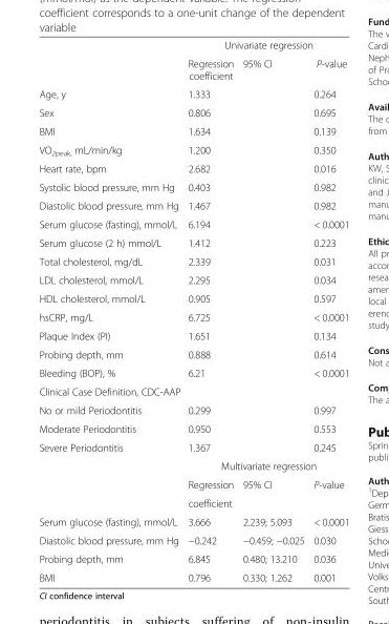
<table><thead><tr><td rowspan="2"></td><td colspan="3">Univariate regression</td></tr><tr><td>Regression coefficient</td><td>95% CI</td><td>P-value</td></tr></thead><tbody><tr><td>Age, y</td><td>1.333</td><td></td><td>0.264</td></tr><tr><td>Sex</td><td>0.806</td><td></td><td>0.695</td></tr><tr><td>BMI</td><td>1.634</td><td></td><td>0.139</td></tr><tr><td>VO<sub>2peak,</sub> mL/min/kg</td><td>1.200</td><td></td><td>0.350</td></tr><tr><td>Heart rate, bpm</td><td>2.682</td><td></td><td>0.016</td></tr><tr><td>Systolic blood pressure, mm Hg</td><td>0.403</td><td></td><td>0.982</td></tr><tr><td>Diastolic blood pressure, mm Hg</td><td>1.467</td><td></td><td>0.982</td></tr><tr><td>Serum glucose (fasting), mmol/L</td><td>6.194</td><td></td><td>&lt; 0.0001</td></tr><tr><td>Serum glucose (2 h) mmol/L</td><td>1.412</td><td></td><td>0.223</td></tr><tr><td>Total cholesterol, mg/dL</td><td>2.339</td><td></td><td>0.031</td></tr><tr><td>LDL cholesterol, mmol/L</td><td>2.295</td><td></td><td>0.034</td></tr><tr><td>HDL cholesterol, mmol/L</td><td>0.905</td><td></td><td>0.597</td></tr><tr><td>hsCRP, mg/L</td><td>6.725</td><td></td><td>&lt; 0.0001</td></tr><tr><td>Plaque Index (PI)</td><td>1.651</td><td></td><td>0.134</td></tr><tr><td>Probing depth, mm</td><td>0.888</td><td></td><td>0.614</td></tr><tr><td>Bleeding (BOP), %</td><td>6.21</td><td></td><td>&lt; 0.0001</td></tr><tr><td colspan="4">Clinical Case Definition, CDC-AAP</td></tr><tr><td>No or mild Periodontitis</td><td>0.299</td><td></td><td>0.997</td></tr><tr><td>Moderate Periodontitis</td><td>0.950</td><td></td><td>0.553</td></tr><tr><td rowspan="4">Severe Periodontitis</td><td>1.367</td><td></td><td>0.245</td></tr><tr><td colspan="3">Multivariate regression</td></tr><tr><td>Regression</td><td>95% CI</td><td>P-value</td></tr><tr><td>coefficient</td><td></td><td></td></tr><tr><td>Serum glucose (fasting), mmol/L</td><td>3.666</td><td>2.239; 5.093</td><td>&lt; 0.0001</td></tr><tr><td>Diastolic blood pressure, mm Hg</td><td>−0.242</td><td>−0.459; −0.025</td><td>0.030</td></tr><tr><td>Probing depth, mm</td><td>6.845</td><td>0.480; 13.210</td><td>0.036</td></tr><tr><td>BMI</td><td>0.796</td><td>0.330; 1.262</td><td>0.001</td></tr></tbody></table>